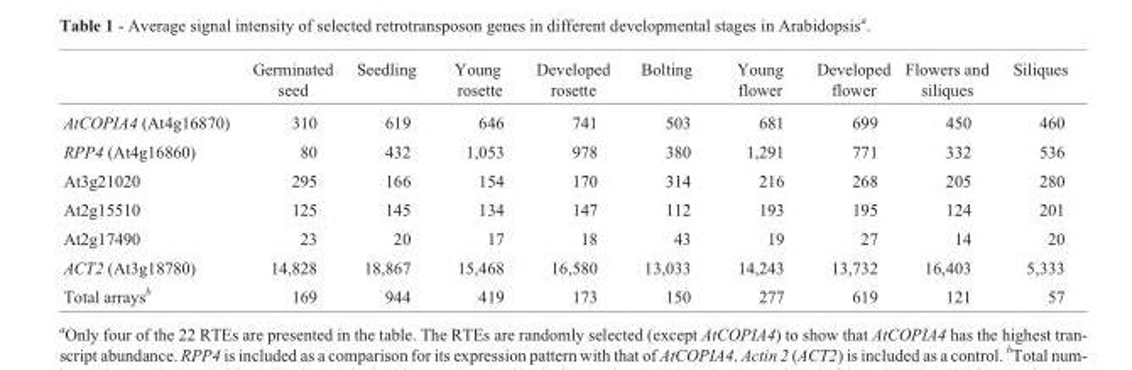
<table><thead><tr><td></td><td>Germinated seed</td><td>Seedling</td><td>Young rosette</td><td>Developed rosette</td><td>Bolting</td><td>Young flower</td><td>Developed flower</td><td>Flowers and siliques</td><td>Siliques</td></tr></thead><tbody><tr><td>AtCOPIA4 (At4g16870)</td><td>310</td><td>619</td><td>646</td><td>741</td><td>503</td><td>681</td><td>699</td><td>450</td><td>460</td></tr><tr><td>RPP4 (At4g16860)</td><td>80</td><td>432</td><td>1,053</td><td>978</td><td>380</td><td>1,291</td><td>771</td><td>332</td><td>536</td></tr><tr><td>At3g21020</td><td>295</td><td>166</td><td>154</td><td>170</td><td>314</td><td>216</td><td>268</td><td>205</td><td>280</td></tr><tr><td>At2g15510</td><td>125</td><td>145</td><td>134</td><td>147</td><td>112</td><td>193</td><td>195</td><td>124</td><td>201</td></tr><tr><td>At2g17490</td><td>23</td><td>20</td><td>17</td><td>18</td><td>43</td><td>19</td><td>27</td><td>14</td><td>20</td></tr><tr><td>ACT2 (At3g18780)</td><td>14,828</td><td>18,867</td><td>15,468</td><td>16,580</td><td>13,033</td><td>14,243</td><td>13,732</td><td>16,403</td><td>5,333</td></tr><tr><td>Total arrays<sup>b</sup></td><td>169</td><td>944</td><td>419</td><td>173</td><td>150</td><td>277</td><td>619</td><td>121</td><td>57</td></tr></tbody></table>